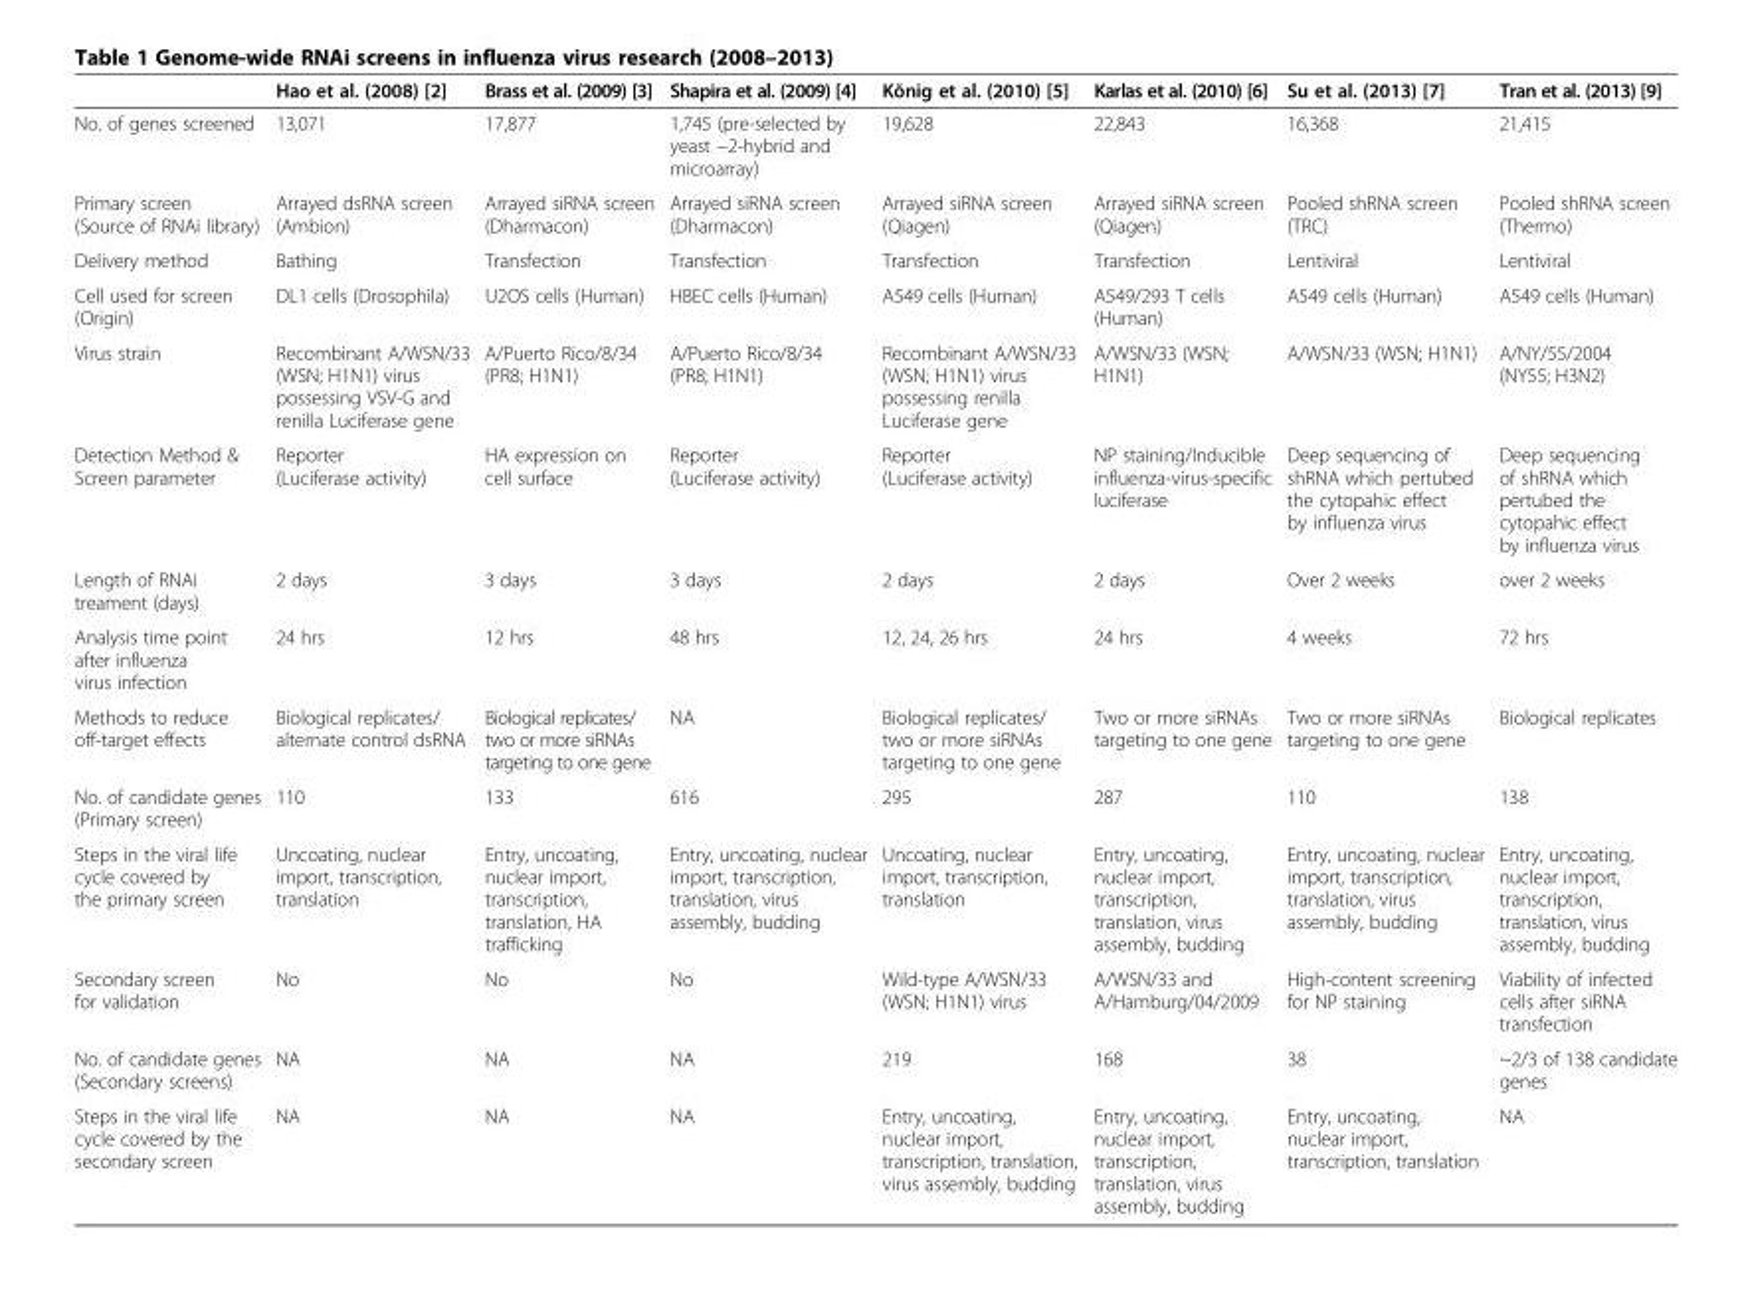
<table><thead><tr><td></td><td>Hao et al. (2008) [2]</td><td>Brass et al. (2009) [3]</td><td>Shapira et al. (2009) [4]</td><td>Kŏnig et al. (2010) [5]</td><td>Karlas et al. (2010) [6]</td><td>Su et al. (2013) [7]</td><td>Tran et al. (2013) [9]</td></tr></thead><tbody><tr><td>No. of genes screened</td><td>13,071</td><td>17,877</td><td>1,745 (pre-selected by yeast −2-hybrid and microarray)</td><td>19,628</td><td>22,843</td><td>16,368</td><td>21,415</td></tr><tr><td>Primary screen (Source of RNAi library)</td><td>Arrayed dsRNA screen (Ambion)</td><td>Arrayed siRNA screen (Dharmacon)</td><td>Arrayed siRNA screen (Dharmacon)</td><td>Arrayed siRNA screen (Qiagen)</td><td>Arrayed siRNA screen (Qiagen)</td><td>Pooled shRNA screen (TRC)</td><td>Pooled shRNA screen (Thermo)</td></tr><tr><td>Delivery method</td><td>Bathing</td><td>Transfection</td><td>Transfection</td><td>Transfection</td><td>Transfection</td><td>Lentiviral</td><td>Lentiviral</td></tr><tr><td>Cell used for screen (Origin)</td><td>DL1 cells (Drosophila)</td><td>U2OS cells (Human)</td><td>HBEC cells (Human)</td><td>A549 cells (Human)</td><td>A549/293 T cells (Human)</td><td>A549 cells (Human)</td><td>A549 cells (Human)</td></tr><tr><td>Virus strain</td><td>Recombinant A/WSN/33 (WSN; H1N1) virus possessing VSV-G and renilla Luciferase gene</td><td>A/Puerto Rico/8/34 (PR8; H1N1)</td><td>A/Puerto Rico/8/34 (PR8; H1N1)</td><td>Recombinant A/WSN/33 (WSN; H1N1) virus possessing renilla Luciferase gene</td><td>A/WSN/33 (WSN; H1N1)</td><td>A/WSN/33 (WSN; H1N1)</td><td>A/NY/55/2004 (NY55; H3N2)</td></tr><tr><td>Detection Method &amp; Screen parameter</td><td>Reporter (Luciferase activity)</td><td>HA expression on cell surface</td><td>Reporter (Luciferase activity)</td><td>Reporter (Luciferase activity)</td><td>NP staining/Inducible influenza-virus-specific luciferase</td><td>Deep sequencing of shRNA which pertubed the cytopahic effect by influenza virus</td><td>Deep sequencing of shRNA which pertubed the cytopahic effect by influenza virus</td></tr><tr><td>Length of RNAi treament (days)</td><td>2 days</td><td>3 days</td><td>3 days</td><td>2 days</td><td>2 days</td><td>Over 2 weeks</td><td>over 2 weeks</td></tr><tr><td>Analysis time point after influenza virus infection</td><td>24 hrs</td><td>12 hrs</td><td>48 hrs</td><td>12, 24, 26 hrs</td><td>24 hrs</td><td>4 weeks</td><td>72 hrs</td></tr><tr><td>Methods to reduce off-target effects</td><td>Biological replicates/ alternate control dsRNA</td><td>Biological replicates/ two or more siRNAs targeting to one gene</td><td>NA</td><td>Biological replicates/ two or more siRNAs targeting to one gene</td><td>Two or more siRNAs targeting to one gene</td><td>Two or more siRNAs targeting to one gene</td><td>Biological replicates</td></tr><tr><td>No. of candidate genes (Primary screen)</td><td>110</td><td>133</td><td>616</td><td>295</td><td>287</td><td>110</td><td>138</td></tr><tr><td>Steps in the viral life cycle covered by the primary screen</td><td>Uncoating, nuclear import, transcription, translation</td><td>Entry, uncoating, nuclear import, transcription, translation, HA trafficking</td><td>Entry, uncoating, nuclear import, transcription, translation, virus assembly, budding</td><td>Uncoating, nuclear import, transcription, translation</td><td>Entry, uncoating, nuclear import, transcription, translation, virus assembly, budding</td><td>Entry, uncoating, nuclear import, transcription, translation, virus assembly, budding</td><td>Entry, uncoating, nuclear import, transcription, translation, virus assembly, budding</td></tr><tr><td>Secondary screen for validation</td><td>No</td><td>No</td><td>No</td><td>Wild-type A/WSN/33 (WSN; H1N1) virus</td><td>A/WSN/33 and A/Hamburg/04/2009</td><td>High-content screening for NP staining</td><td>Viability of infected cells after siRNA transfection</td></tr><tr><td>No. of candidate genes (Secondary screens)</td><td>NA</td><td>NA</td><td>NA</td><td>219</td><td>168</td><td>38</td><td>~2/3 of 138 candidate genes</td></tr><tr><td>Steps in the viral life cycle covered by the secondary screen</td><td>NA</td><td>NA</td><td>NA</td><td>Entry, uncoating, nuclear import, transcription, translation, virus assembly, budding</td><td>Entry, uncoating, nuclear import, transcription, translation, virus assembly, budding</td><td>Entry, uncoating, nuclear import, transcription, translation</td><td>NA</td></tr></tbody></table>